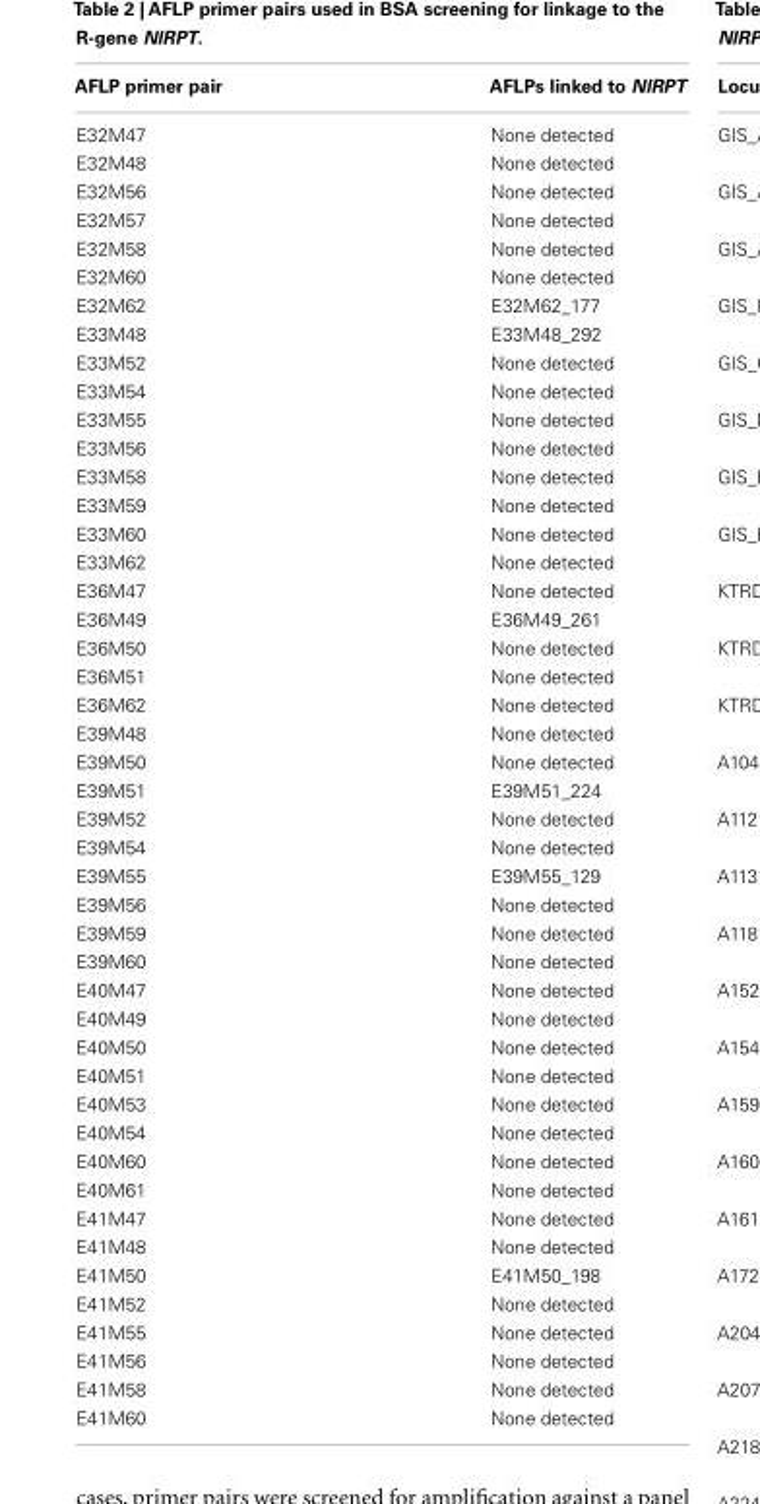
<table><thead><tr><td>AFLP primer pair</td><td>AFLPs linked to NlRPT</td></tr></thead><tbody><tr><td>E32M47</td><td>None detected</td></tr><tr><td>E32M48</td><td>None detected</td></tr><tr><td>E32M56</td><td>None detected</td></tr><tr><td>E32M57</td><td>None detected</td></tr><tr><td>E32M58</td><td>None detected</td></tr><tr><td>E32M60</td><td>None detected</td></tr><tr><td>E32M62</td><td>E32M62_177</td></tr><tr><td>E33M48</td><td>E33M48_292</td></tr><tr><td>E33M52</td><td>None detected</td></tr><tr><td>E33M54</td><td>None detected</td></tr><tr><td>E33M55</td><td>None detected</td></tr><tr><td>E33M56</td><td>None detected</td></tr><tr><td>E33M58</td><td>None detected</td></tr><tr><td>E33M59</td><td>None detected</td></tr><tr><td>E33M60</td><td>None detected</td></tr><tr><td>E33M62</td><td>None detected</td></tr><tr><td>E36M47</td><td>None detected</td></tr><tr><td>E36M49</td><td>E36M49_261</td></tr><tr><td>E36M50</td><td>None detected</td></tr><tr><td>E36M51</td><td>None detected</td></tr><tr><td>E36M62</td><td>None detected</td></tr><tr><td>E39M48</td><td>None detected</td></tr><tr><td>E39M50</td><td>None detected</td></tr><tr><td>E39M51</td><td>E39M51_224</td></tr><tr><td>E39M52</td><td>None detected</td></tr><tr><td>E39M54</td><td>None detected</td></tr><tr><td>E39M55</td><td>E39M55_129</td></tr><tr><td>E39M56</td><td>None detected</td></tr><tr><td>E39M59</td><td>None detected</td></tr><tr><td>E39M60</td><td>None detected</td></tr><tr><td>E40M47</td><td>None detected</td></tr><tr><td>E40M49</td><td>None detected</td></tr><tr><td>E40M50</td><td>None detected</td></tr><tr><td>E40M51</td><td>None detected</td></tr><tr><td>E40M53</td><td>None detected</td></tr><tr><td>E40M54</td><td>None detected</td></tr><tr><td>E40M60</td><td>None detected</td></tr><tr><td>E40M61</td><td>None detected</td></tr><tr><td>E41M47</td><td>None detected</td></tr><tr><td>E41M48</td><td>None detected</td></tr><tr><td>E41M50</td><td>E41M50_198</td></tr><tr><td>E41M52</td><td>None detected</td></tr><tr><td>E41M55</td><td>None detected</td></tr><tr><td>E41M56</td><td>None detected</td></tr><tr><td>E41M58</td><td>None detected</td></tr><tr><td>E41M60</td><td>None detected</td></tr></tbody></table>